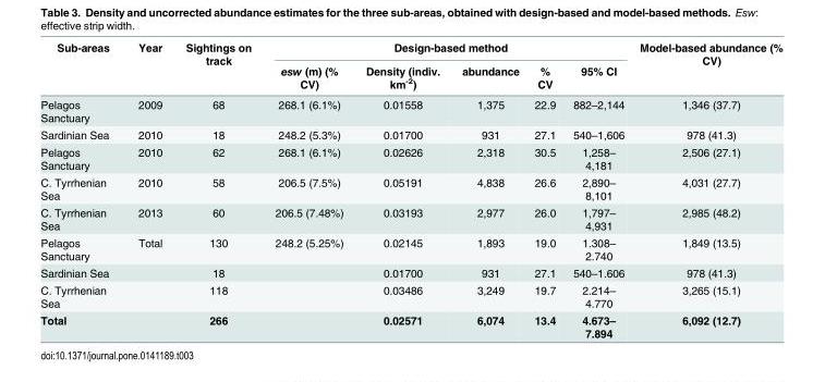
<table><thead><tr><td rowspan="2">Sub-areas</td><td rowspan="2">Year</td><td rowspan="2">Sightings on track</td><td colspan="5">Design-based method</td><td rowspan="2">Model-based abundance (% CV)</td></tr><tr><td>esw (m) (% CV)</td><td>Density (indiv. km<sup>-2</sup>)</td><td>abundance</td><td>% CV</td><td>95% CI</td></tr></thead><tbody><tr><td>Pelagos Sanctuary</td><td>2009</td><td>68</td><td>268.1 (6.1%)</td><td>0.01558</td><td>1,375</td><td>22.9</td><td>882–2,144</td><td>1,346 (37.7)</td></tr><tr><td>Sardinian Sea</td><td>2010</td><td>18</td><td>248.2 (5.3%)</td><td>0.01700</td><td>931</td><td>27.1</td><td>540–1,606</td><td>978 (41.3)</td></tr><tr><td>Pelagos Sanctuary</td><td>2010</td><td>62</td><td>268.1 (6.1%)</td><td>0.02626</td><td>2,318</td><td>30.5</td><td>1,258– 4,181</td><td>2,506 (27.1)</td></tr><tr><td>C. Tyrrhenian Sea</td><td>2010</td><td>58</td><td>206.5 (7.5%)</td><td>0.05191</td><td>4,838</td><td>26.6</td><td>2,890– 8,101</td><td>4,031 (27.7)</td></tr><tr><td>C. Tyrrhenian Sea</td><td>2013</td><td>60</td><td>206.5 (7.48%)</td><td>0.03193</td><td>2,977</td><td>26.0</td><td>1,797– 4,931</td><td>2,985 (48.2)</td></tr><tr><td>Pelagos Sanctuary</td><td>Total</td><td>130</td><td>248.2 (5.25%)</td><td>0.02145</td><td>1,893</td><td>19.0</td><td>1.308– 2.740</td><td>1,849 (13.5)</td></tr><tr><td>Sardinian Sea</td><td></td><td>18</td><td></td><td>0.01700</td><td>931</td><td>27.1</td><td>540–1.606</td><td>978 (41.3)</td></tr><tr><td>C. Tyrrhenian Sea</td><td></td><td>118</td><td></td><td>0.03486</td><td>3,249</td><td>19.7</td><td>2.214– 4.770</td><td>3,265 (15.1)</td></tr><tr><td colspan="2">Total</td><td>266</td><td></td><td>0.02571</td><td>6,074</td><td>13.4</td><td>4.673– 7.894</td><td>6,092 (12.7)</td></tr></tbody></table>